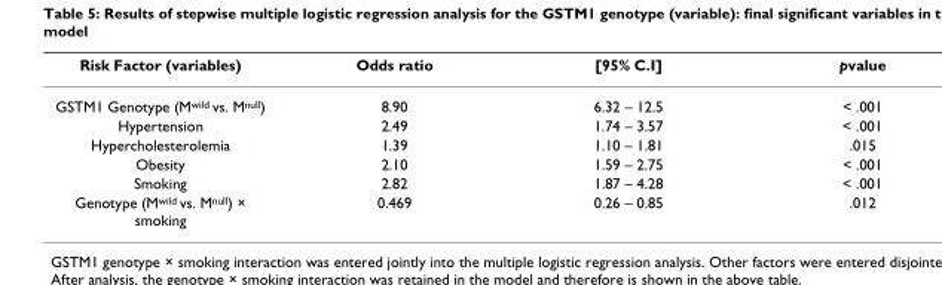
<table><thead><tr><td>Risk Factor (variables)</td><td>Odds ratio</td><td>[95% C.I]</td><td>pvalue</td></tr></thead><tbody><tr><td>GSTM1 Genotype (M<sup>wild</sup> vs. M<sup>null</sup>)</td><td>8.90</td><td>6.32 – 12.5</td><td>&lt; .001</td></tr><tr><td>Hypertension</td><td>2.49</td><td>1.74 – 3.57</td><td>&lt; .001</td></tr><tr><td>Hypercholesterolemia</td><td>1.39</td><td>1.10 – 1.81</td><td>.015</td></tr><tr><td>Obesity</td><td>2.10</td><td>1.59 – 2.75</td><td>&lt; .001</td></tr><tr><td>Smoking</td><td>2.82</td><td>1.87 – 4.28</td><td>&lt; .001</td></tr><tr><td>Genotype (M<sup>wild</sup> vs. M<sup>null</sup>) × smoking</td><td>0.469</td><td>0.26 – 0.85</td><td>.012</td></tr></tbody></table>